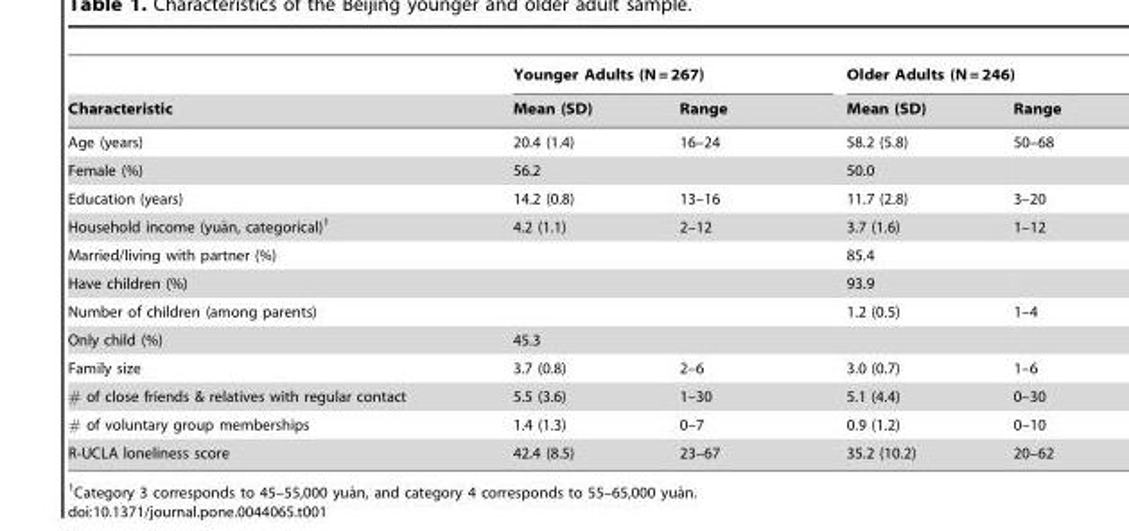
<table><thead><tr><td rowspan="2">Characteristic</td><td colspan="2">Younger Adults (N = 267)</td><td colspan="2">Older Adults (N = 246)</td></tr><tr><td>Mean (SD)</td><td>Range</td><td>Mean (SD)</td><td>Range</td></tr></thead><tbody><tr><td>Age (years)</td><td>20.4 (1.4)</td><td>16–24</td><td>58.2 (5.8)</td><td>50–68</td></tr><tr><td>Female (%)</td><td>56.2</td><td></td><td>50.0</td><td></td></tr><tr><td>Education (years)</td><td>14.2 (0.8)</td><td>13–16</td><td>11.7 (2.8)</td><td>3–20</td></tr><tr><td>Household income (yua`n, categorical)1</td><td>4.2 (1.1)</td><td>2–12</td><td>3.7 (1.6)</td><td>1–12</td></tr><tr><td>Married/living with partner (%)</td><td></td><td></td><td>85.4</td><td></td></tr><tr><td>Have children (%)</td><td></td><td></td><td>93.9</td><td></td></tr><tr><td>Number of children (among parents)</td><td></td><td></td><td>1.2 (0.5)</td><td>1–4</td></tr><tr><td>Only child (%)</td><td>45.3</td><td></td><td></td><td></td></tr><tr><td>Family size</td><td>3.7 (0.8)</td><td>2–6</td><td>3.0 (0.7)</td><td>1–6</td></tr><tr><td># of close friends &amp; relatives with regular contact</td><td>5.5 (3.6)</td><td>1–30</td><td>5.1 (4.4)</td><td>0–30</td></tr><tr><td># of voluntary group memberships</td><td>1.4 (1.3)</td><td>0–7</td><td>0.9 (1.2)</td><td>0–10</td></tr><tr><td>R-UCLA loneliness score</td><td>42.4 (8.5)</td><td>23–67</td><td>35.2 (10.2)</td><td>20–62</td></tr></tbody></table>